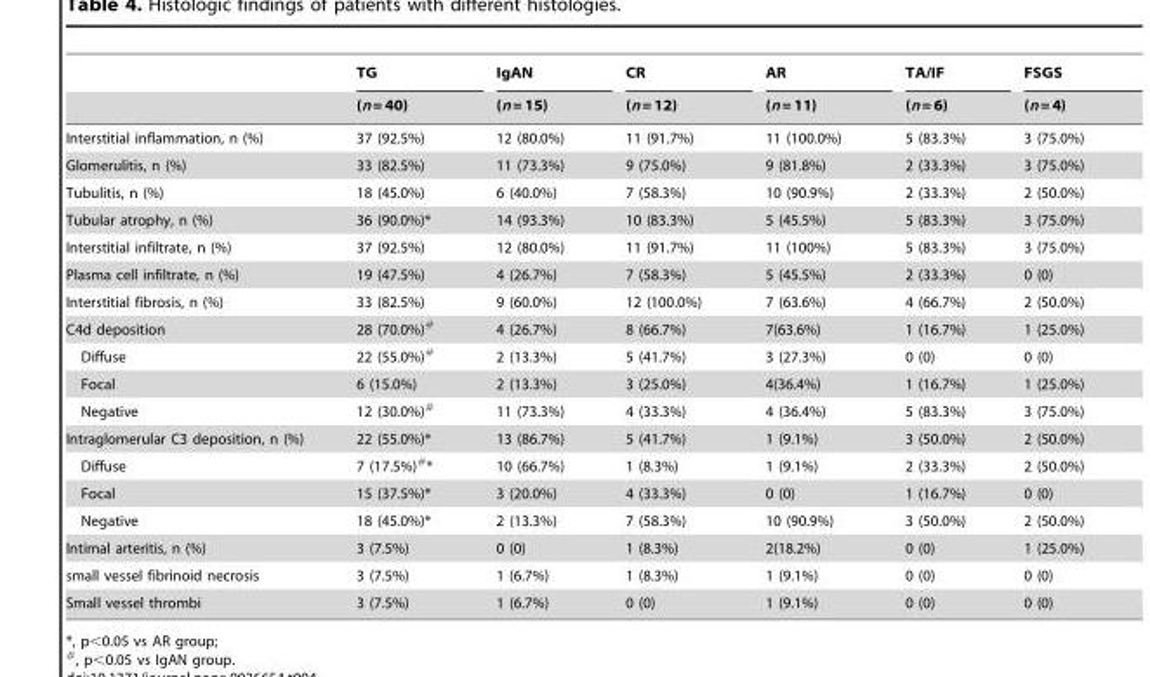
<table><thead><tr><td rowspan="2"></td><td rowspan="2">TG (n = 40)</td><td rowspan="2">IgAN (n = 15)</td><td rowspan="2">CR (n = 12)</td><td rowspan="2">AR (n = 11)</td><td rowspan="2">TA/IF (n = 6)</td><td rowspan="2">FSGS (n = 4)</td></tr><tr></tr></thead><tbody><tr><td>Interstitial inflammation, n (%)</td><td>37 (92.5%)</td><td>12 (80.0%)</td><td>11 (91.7%)</td><td>11 (100.0%)</td><td>5 (83.3%)</td><td>3 (75.0%)</td></tr><tr><td>Glomerulitis, n (%)</td><td>33 (82.5%)</td><td>11 (73.3%)</td><td>9 (75.0%)</td><td>9 (81.8%)</td><td>2 (33.3%)</td><td>3 (75.0%)</td></tr><tr><td>Tubulitis, n (%)</td><td>18 (45.0%)</td><td>6 (40.0%)</td><td>7 (58.3%)</td><td>10 (90.9%)</td><td>2 (33.3%)</td><td>2 (50.0%)</td></tr><tr><td>Tubular atrophy, n (%)</td><td>36 (90.0%)*</td><td>14 (93.3%)</td><td>10 (83.3%)</td><td>5 (45.5%)</td><td>5 (83.3%)</td><td>3 (75.0%)</td></tr><tr><td>Interstitial infiltrate, n (%)</td><td>37 (92.5%)</td><td>12 (80.0%)</td><td>11 (91.7%)</td><td>11 (100%)</td><td>5 (83.3%)</td><td>3 (75.0%)</td></tr><tr><td>Plasma cell infiltrate, n (%)</td><td>19 (47.5%)</td><td>4 (26.7%)</td><td>7 (58.3%)</td><td>5 (45.5%)</td><td>2 (33.3%)</td><td>0 (0)</td></tr><tr><td>Interstitial fibrosis, n (%)</td><td>33 (82.5%)</td><td>9 (60.0%)</td><td>12 (100.0%)</td><td>7 (63.6%)</td><td>4 (66.7%)</td><td>2 (50.0%)</td></tr><tr><td>C4d deposition</td><td>28 (70.0%)#</td><td>4 (26.7%)</td><td>8 (66.7%)</td><td>7(63.6%)</td><td>1 (16.7%)</td><td>1 (25.0%)</td></tr><tr><td>Diffuse</td><td>22 (55.0%)#</td><td>2 (13.3%)</td><td>5 (41.7%)</td><td>3 (27.3%)</td><td>0 (0)</td><td>0 (0)</td></tr><tr><td>Focal</td><td>6 (15.0%)</td><td>2 (13.3%)</td><td>3 (25.0%)</td><td>4(36.4%)</td><td>1 (16.7%)</td><td>1 (25.0%)</td></tr><tr><td>Negative</td><td>12 (30.0%)#</td><td>11 (73.3%)</td><td>4 (33.3%)</td><td>4 (36.4%)</td><td>5 (83.3%)</td><td>3 (75.0%)</td></tr><tr><td>Intraglomerular C3 deposition, n (%)</td><td>22 (55.0%)*</td><td>13 (86.7%)</td><td>5 (41.7%)</td><td>1 (9.1%)</td><td>3 (50.0%)</td><td>2 (50.0%)</td></tr><tr><td>Diffuse</td><td>7 (17.5%)#*</td><td>10 (66.7%)</td><td>1 (8.3%)</td><td>1 (9.1%)</td><td>2 (33.3%)</td><td>2 (50.0%)</td></tr><tr><td>Focal</td><td>15 (37.5%)*</td><td>3 (20.0%)</td><td>4 (33.3%)</td><td>0 (0)</td><td>1 (16.7%)</td><td>0 (0)</td></tr><tr><td>Negative</td><td>18 (45.0%)*</td><td>2 (13.3%)</td><td>7 (58.3%)</td><td>10 (90.9%)</td><td>3 (50.0%)</td><td>2 (50.0%)</td></tr><tr><td>Intimal arteritis, n (%)</td><td>3 (7.5%)</td><td>0 (0)</td><td>1 (8.3%)</td><td>2(18.2%)</td><td>0 (0)</td><td>1 (25.0%)</td></tr><tr><td>small vessel fibrinoid necrosis</td><td>3 (7.5%)</td><td>1 (6.7%)</td><td>1 (8.3%)</td><td>1 (9.1%)</td><td>0 (0)</td><td>0 (0)</td></tr><tr><td>Small vessel thrombi</td><td>3 (7.5%)</td><td>1 (6.7%)</td><td>0 (0)</td><td>1 (9.1%)</td><td>0 (0)</td><td>0 (0)</td></tr></tbody></table>